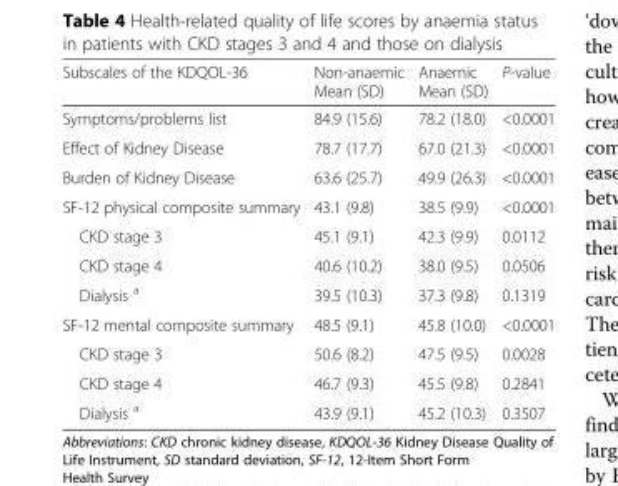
<table><thead><tr><td>Subscales of the KDQOL-36</td><td>Non-anaemic Mean (SD)</td><td>Anaemic Mean (SD)</td><td>P-value</td></tr></thead><tbody><tr><td>Symptoms/problems list</td><td>84.9 (15.6)</td><td>78.2 (18.0)</td><td>&lt;0.0001</td></tr><tr><td>Effect of Kidney Disease</td><td>78.7 (17.7)</td><td>67.0 (21.3)</td><td>&lt;0.0001</td></tr><tr><td>Burden of Kidney Disease</td><td>63.6 (25.7)</td><td>49.9 (26.3)</td><td>&lt;0.0001</td></tr><tr><td>SF-12 physical composite summary</td><td>43.1 (9.8)</td><td>38.5 (9.9)</td><td>&lt;0.0001</td></tr><tr><td>CKD stage 3</td><td>45.1 (9.1)</td><td>42.3 (9.9)</td><td>0.0112</td></tr><tr><td>CKD stage 4</td><td>40.6 (10.2)</td><td>38.0 (9.5)</td><td>0.0506</td></tr><tr><td>Dialysis <sup>a</sup></td><td>39.5 (10.3)</td><td>37.3 (9.8)</td><td>0.1319</td></tr><tr><td>SF-12 mental composite summary</td><td>48.5 (9.1)</td><td>45.8 (10.0)</td><td>&lt;0.0001</td></tr><tr><td>CKD stage 3</td><td>50.6 (8.2)</td><td>47.5 (9.5)</td><td>0.0028</td></tr><tr><td>CKD stage 4</td><td>46.7 (9.3)</td><td>45.5 (9.8)</td><td>0.2841</td></tr><tr><td>Dialysis <sup>a</sup></td><td>43.9 (9.1)</td><td>45.2 (10.3)</td><td>0.3507</td></tr></tbody></table>